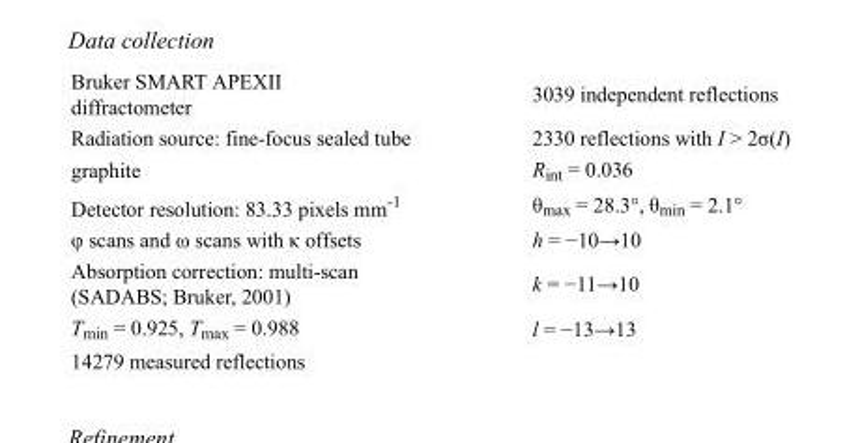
<table><tbody><tr><td>Bruker SMART APEXII diffractometer</td><td>3039 independent reflections</td></tr><tr><td>Radiation source: fine-focus sealed tube</td><td>2330 reflections with I &gt; 2σ(I)</td></tr><tr><td>graphite</td><td>R<sub>int</sub> = 0.036</td></tr><tr><td>Detector resolution: 83.33 pixels mm<sup>-1</sup></td><td>θ<sub>max</sub> = 28.3°, θ<sub>min</sub> = 2.1°</td></tr><tr><td>φ scans and ω scans with κ offsets</td><td>h = −10→10</td></tr><tr><td>Absorption correction: multi-scan (SADABS; Bruker, 2001)</td><td>k = −11→10</td></tr><tr><td>T<sub>min</sub> = 0.925, T<sub>max</sub> = 0.988</td><td>l = −13→13</td></tr><tr><td>14279 measured reflections</td><td></td></tr></tbody></table>